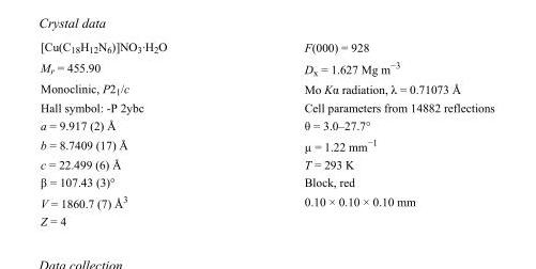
<table><tbody><tr><td>[Cu(C<sub>18</sub>H<sub>12</sub>N<sub>6</sub>)]NO<sub>3</sub>·H<sub>2</sub>O</td><td>F(000) = 928</td></tr><tr><td>M<sub>r</sub> = 455.90</td><td>D<sub>x</sub> = 1.627 Mg m<sup>−3</sup></td></tr><tr><td>Monoclinic, P2<sub>1</sub>/c</td><td>Mo Kα radiation, λ = 0.71073 Å</td></tr><tr><td>Hall symbol: -P 2ybc</td><td>Cell parameters from 14882 reflections</td></tr><tr><td>a = 9.917 (2) Å</td><td>θ = 3.0–27.7°</td></tr><tr><td>b = 8.7409 (17) Å</td><td>µ = 1.22 mm<sup>−1</sup></td></tr><tr><td>c = 22.499 (6) Å</td><td>T = 293 K</td></tr><tr><td>β = 107.43 (3)°</td><td>Block, red</td></tr><tr><td>V = 1860.7 (7) Å<sup>3</sup></td><td>0.10 × 0.10 × 0.10 mm</td></tr><tr><td>Z = 4</td><td></td></tr></tbody></table>